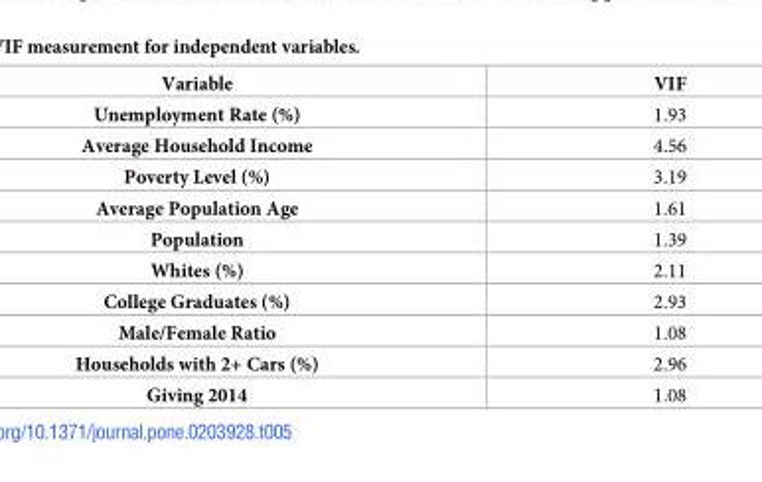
<table><thead><tr><td>Variable</td><td>VIF</td></tr></thead><tbody><tr><td>Unemployment Rate (%)</td><td>1.93</td></tr><tr><td>Average Household Income</td><td>4.56</td></tr><tr><td>Poverty Level (%)</td><td>3.19</td></tr><tr><td>Average Population Age</td><td>1.61</td></tr><tr><td>Population</td><td>1.39</td></tr><tr><td>Whites (%)</td><td>2.11</td></tr><tr><td>College Graduates (%)</td><td>2.93</td></tr><tr><td>Male/Female Ratio</td><td>1.08</td></tr><tr><td>Households with 2+ Cars (%)</td><td>2.96</td></tr><tr><td>Giving 2014</td><td>1.08</td></tr></tbody></table>